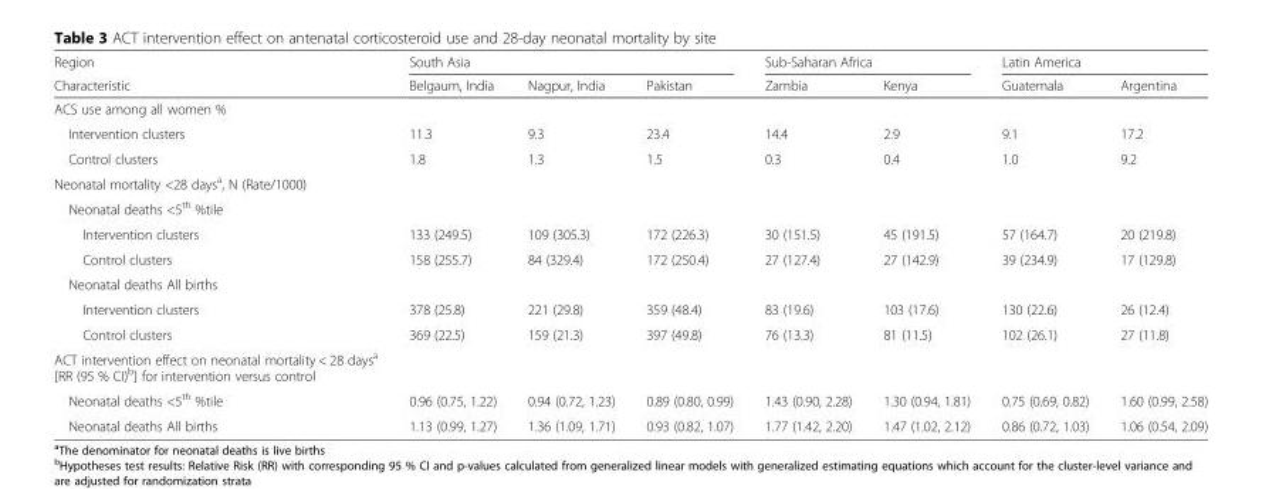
<table><thead><tr><td rowspan="2">Region Characteristic</td><td colspan="3">South Asia</td><td colspan="2">Sub-Saharan Africa</td><td colspan="2">Latin America</td></tr><tr><td>Belgaum, India</td><td>Nagpur, India</td><td>Pakistan</td><td>Zambia</td><td>Kenya</td><td>Guatemala</td><td>Argentina</td></tr></thead><tbody><tr><td colspan="8">ACS use among all women %</td></tr><tr><td>Intervention clusters</td><td>11.3</td><td>9.3</td><td>23.4</td><td>14.4</td><td>2.9</td><td>9.1</td><td>17.2</td></tr><tr><td>Control clusters</td><td>1.8</td><td>1.3</td><td>1.5</td><td>0.3</td><td>0.4</td><td>1.0</td><td>9.2</td></tr><tr><td colspan="8">Neonatal mortality &lt;28 days<sup>a</sup>, N (Rate/1000)</td></tr><tr><td colspan="8">Neonatal deaths &lt;5<sup>th</sup> %tile</td></tr><tr><td>Intervention clusters</td><td>133 (249.5)</td><td>109 (305.3)</td><td>172 (226.3)</td><td>30 (151.5)</td><td>45 (191.5)</td><td>57 (164.7)</td><td>20 (219.8)</td></tr><tr><td>Control clusters</td><td>158 (255.7)</td><td>84 (329.4)</td><td>172 (250.4)</td><td>27 (127.4)</td><td>27 (142.9)</td><td>39 (234.9)</td><td>17 (129.8)</td></tr><tr><td colspan="8">Neonatal deaths All births</td></tr><tr><td>Intervention clusters</td><td>378 (25.8)</td><td>221 (29.8)</td><td>359 (48.4)</td><td>83 (19.6)</td><td>103 (17.6)</td><td>130 (22.6)</td><td>26 (12.4)</td></tr><tr><td>Control clusters</td><td>369 (22.5)</td><td>159 (21.3)</td><td>397 (49.8)</td><td>76 (13.3)</td><td>81 (11.5)</td><td>102 (26.1)</td><td>27 (11.8)</td></tr><tr><td colspan="8">ACT intervention effect on neonatal mortality &lt; 28 days<sup>a</sup> [RR (95 % CI)<sup>b</sup>] for intervention versus control</td></tr><tr><td>Neonatal deaths &lt;5<sup>th</sup> %tile</td><td>0.96 (0.75, 1.22)</td><td>0.94 (0.72, 1.23)</td><td>0.89 (0.80, 0.99)</td><td>1.43 (0.90, 2.28)</td><td>1.30 (0.94, 1.81)</td><td>0.75 (0.69, 0.82)</td><td>1.60 (0.99, 2.58)</td></tr><tr><td>Neonatal deaths All births</td><td>1.13 (0.99, 1.27)</td><td>1.36 (1.09, 1.71)</td><td>0.93 (0.82, 1.07)</td><td>1.77 (1.42, 2.20)</td><td>1.47 (1.02, 2.12)</td><td>0.86 (0.72, 1.03)</td><td>1.06 (0.54, 2.09)</td></tr></tbody></table>